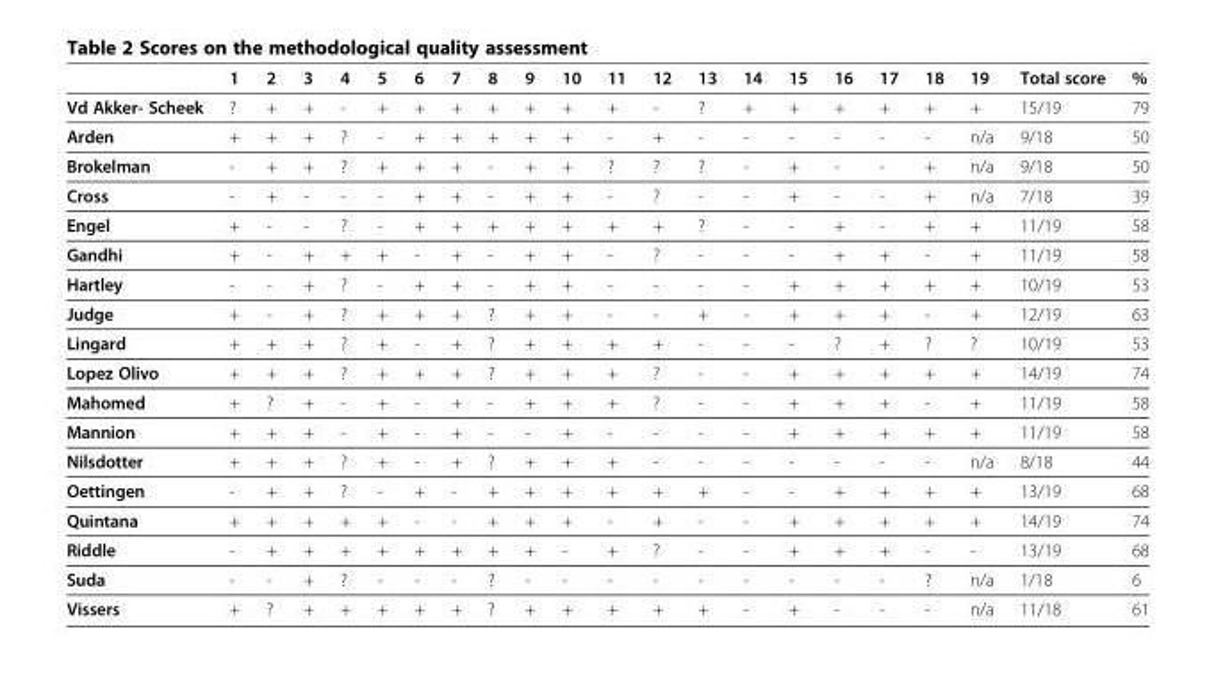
<table><thead><tr><td></td><td>1</td><td>2</td><td>3</td><td>4</td><td>5</td><td>6</td><td>7</td><td>8</td><td>9</td><td>10</td><td>11</td><td>12</td><td>13</td><td>14</td><td>15</td><td>16</td><td>17</td><td>18</td><td>19</td><td>Total score</td><td>%</td></tr></thead><tbody><tr><td>Vd Akker- Scheek</td><td>?</td><td>+</td><td>+</td><td>-</td><td>+</td><td>+</td><td>+</td><td>+</td><td>+</td><td>+</td><td>+</td><td>-</td><td>?</td><td>+</td><td>+</td><td>+</td><td>+</td><td>+</td><td>+</td><td>15/19</td><td>79</td></tr><tr><td>Arden</td><td>+</td><td>+</td><td>+</td><td>?</td><td>-</td><td>+</td><td>+</td><td>+</td><td>+</td><td>+</td><td>-</td><td>+</td><td>-</td><td>-</td><td>-</td><td>-</td><td>-</td><td>-</td><td>n/a</td><td>9/18</td><td>50</td></tr><tr><td>Brokelman</td><td>-</td><td>+</td><td>+</td><td>?</td><td>+</td><td>+</td><td>+</td><td>-</td><td>+</td><td>+</td><td>?</td><td>?</td><td>?</td><td>-</td><td>+</td><td>-</td><td>-</td><td>+</td><td>n/a</td><td>9/18</td><td>50</td></tr><tr><td>Cross</td><td>-</td><td>+</td><td>-</td><td>-</td><td>-</td><td>+</td><td>+</td><td>-</td><td>+</td><td>+</td><td>-</td><td>?</td><td>-</td><td>-</td><td>+</td><td>-</td><td>-</td><td>+</td><td>n/a</td><td>7/18</td><td>39</td></tr><tr><td>Engel</td><td>+</td><td>-</td><td>-</td><td>?</td><td>-</td><td>+</td><td>+</td><td>+</td><td>+</td><td>+</td><td>+</td><td>+</td><td>?</td><td>-</td><td>-</td><td>+</td><td>-</td><td>+</td><td>+</td><td>11/19</td><td>58</td></tr><tr><td>Gandhi</td><td>+</td><td>-</td><td>+</td><td>+</td><td>+</td><td>-</td><td>+</td><td>-</td><td>+</td><td>+</td><td>-</td><td>?</td><td>-</td><td>-</td><td>-</td><td>+</td><td>+</td><td>-</td><td>+</td><td>11/19</td><td>58</td></tr><tr><td>Hartley</td><td>-</td><td>-</td><td>+</td><td>?</td><td>-</td><td>+</td><td>+</td><td>-</td><td>+</td><td>+</td><td>-</td><td>-</td><td>-</td><td>-</td><td>+</td><td>+</td><td>+</td><td>+</td><td>+</td><td>10/19</td><td>53</td></tr><tr><td>Judge</td><td>+</td><td>-</td><td>+</td><td>?</td><td>+</td><td>+</td><td>+</td><td>?</td><td>+</td><td>+</td><td>-</td><td>-</td><td>+</td><td>-</td><td>+</td><td>+</td><td>+</td><td>-</td><td>+</td><td>12/19</td><td>63</td></tr><tr><td>Lingard</td><td>+</td><td>+</td><td>+</td><td>?</td><td>+</td><td>-</td><td>+</td><td>?</td><td>+</td><td>+</td><td>+</td><td>+</td><td>-</td><td>-</td><td>-</td><td>?</td><td>+</td><td>?</td><td>?</td><td>10/19</td><td>53</td></tr><tr><td>Lopez Olivo</td><td>+</td><td>+</td><td>+</td><td>?</td><td>+</td><td>+</td><td>+</td><td>?</td><td>+</td><td>+</td><td>+</td><td>?</td><td>-</td><td>-</td><td>+</td><td>+</td><td>+</td><td>+</td><td>+</td><td>14/19</td><td>74</td></tr><tr><td>Mahomed</td><td>+</td><td>?</td><td>+</td><td>-</td><td>+</td><td>-</td><td>+</td><td>-</td><td>+</td><td>+</td><td>+</td><td>?</td><td>-</td><td>-</td><td>+</td><td>+</td><td>+</td><td>-</td><td>+</td><td>11/19</td><td>58</td></tr><tr><td>Mannion</td><td>+</td><td>+</td><td>+</td><td>-</td><td>+</td><td>-</td><td>+</td><td>-</td><td>-</td><td>+</td><td>-</td><td>-</td><td>-</td><td>-</td><td>+</td><td>+</td><td>+</td><td>+</td><td>+</td><td>11/19</td><td>58</td></tr><tr><td>Nilsdotter</td><td>+</td><td>+</td><td>+</td><td>?</td><td>+</td><td>-</td><td>+</td><td>?</td><td>+</td><td>+</td><td>+</td><td>-</td><td>-</td><td>-</td><td>-</td><td>-</td><td>-</td><td>-</td><td>n/a</td><td>8/18</td><td>44</td></tr><tr><td>Oettingen</td><td>-</td><td>+</td><td>+</td><td>?</td><td>-</td><td>+</td><td>-</td><td>+</td><td>+</td><td>+</td><td>+</td><td>+</td><td>+</td><td>-</td><td>-</td><td>+</td><td>+</td><td>+</td><td>+</td><td>13/19</td><td>68</td></tr><tr><td>Quintana</td><td>+</td><td>+</td><td>+</td><td>+</td><td>+</td><td>-</td><td>-</td><td>+</td><td>+</td><td>+</td><td>-</td><td>+</td><td>-</td><td>-</td><td>+</td><td>+</td><td>+</td><td>+</td><td>+</td><td>14/19</td><td>74</td></tr><tr><td>Riddle</td><td>-</td><td>+</td><td>+</td><td>+</td><td>+</td><td>+</td><td>+</td><td>+</td><td>+</td><td>-</td><td>+</td><td>?</td><td>-</td><td>-</td><td>+</td><td>+</td><td>+</td><td>-</td><td>-</td><td>13/19</td><td>68</td></tr><tr><td>Suda</td><td>-</td><td>-</td><td>+</td><td>?</td><td>-</td><td>-</td><td>-</td><td>?</td><td>-</td><td>-</td><td>-</td><td>-</td><td>-</td><td>-</td><td>-</td><td>-</td><td>-</td><td>?</td><td>n/a</td><td>1/18</td><td>6</td></tr><tr><td>Vissers</td><td>+</td><td>?</td><td>+</td><td>+</td><td>+</td><td>+</td><td>+</td><td>?</td><td>+</td><td>+</td><td>+</td><td>+</td><td>+</td><td>-</td><td>+</td><td>-</td><td>-</td><td>-</td><td>n/a</td><td>11/18</td><td>61</td></tr></tbody></table>